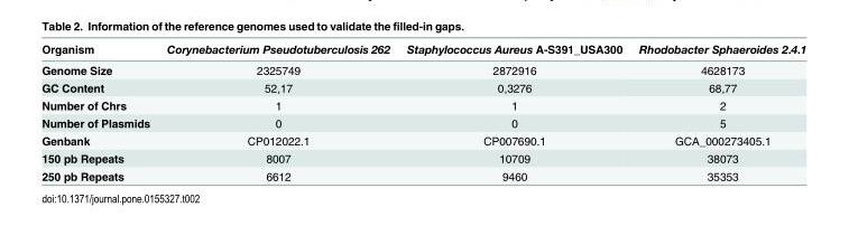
<table><thead><tr><td>Organism</td><td>Corynebacterium Pseudotuberculosis 262</td><td>Staphylococcus Aureus A-S391_USA300</td><td>Rhodobacter Sphaeroides 2.4.1</td></tr></thead><tbody><tr><td>Genome Size</td><td>2325749</td><td>2872916</td><td>4628173</td></tr><tr><td>GC Content</td><td>52,17</td><td>0,3276</td><td>68,77</td></tr><tr><td>Number of Chrs</td><td>1</td><td>1</td><td>2</td></tr><tr><td>Number of Plasmids</td><td>0</td><td>0</td><td>5</td></tr><tr><td>Genbank</td><td>CP012022.1</td><td>CP007690.1</td><td>GCA_000273405.1</td></tr><tr><td>150 pb Repeats</td><td>8007</td><td>10709</td><td>38073</td></tr><tr><td>250 pb Repeats</td><td>6612</td><td>9460</td><td>35353</td></tr></tbody></table>